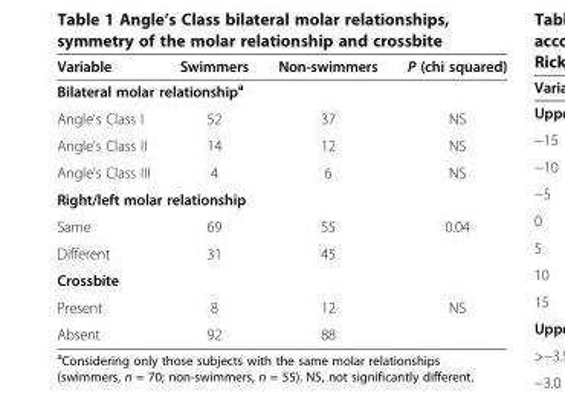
<table><thead><tr><td>Variable</td><td>Swimmers</td><td>Non-swimmers</td><td>P (chi squared)</td></tr></thead><tbody><tr><td colspan="4">Bilateral molar relationship<sup>a</sup></td></tr><tr><td>Angle&#x27;s Class I</td><td>52</td><td>37</td><td>NS</td></tr><tr><td>Angle&#x27;s Class II</td><td>14</td><td>12</td><td>NS</td></tr><tr><td>Angle&#x27;s Class III</td><td>4</td><td>6</td><td>NS</td></tr><tr><td colspan="4">Right/left molar relationship</td></tr><tr><td>Same</td><td>69</td><td>55</td><td>0.04</td></tr><tr><td>Different</td><td>31</td><td>45</td><td></td></tr><tr><td colspan="4">Crossbite</td></tr><tr><td>Present</td><td>8</td><td>12</td><td>NS</td></tr><tr><td>Absent</td><td>92</td><td>88</td><td></td></tr></tbody></table>